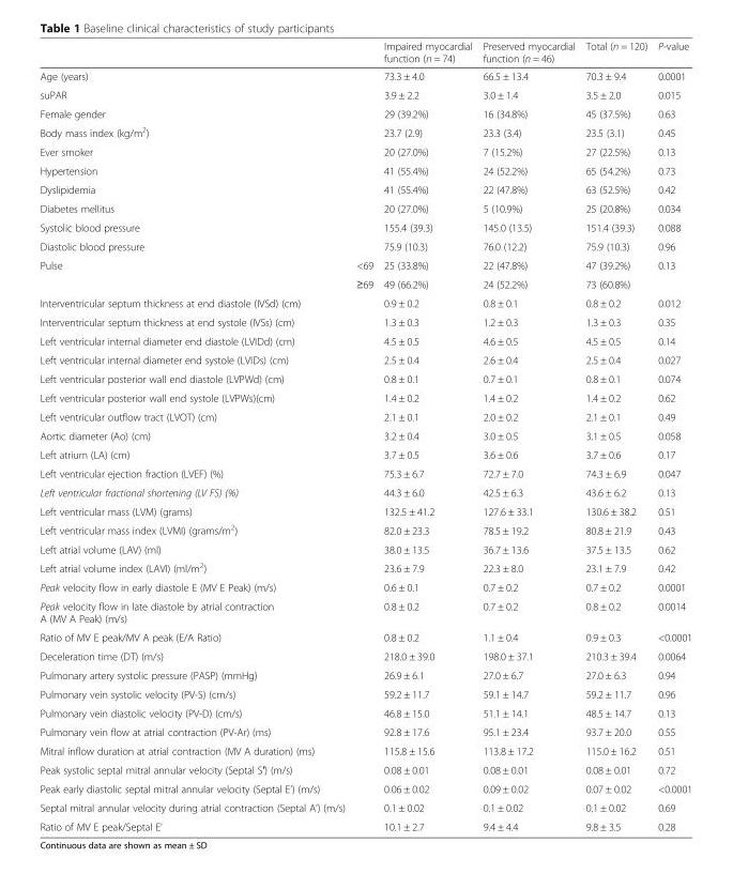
<table><thead><tr><td></td><td></td><td>Impaired myocardial function (n = 74)</td><td>Preserved myocardial function (n = 46)</td><td>Total (n = 120)</td><td>P-value</td></tr></thead><tbody><tr><td>Age (years)</td><td></td><td>73.3 ± 4.0</td><td>66.5 ± 13.4</td><td>70.3 ± 9.4</td><td>0.0001</td></tr><tr><td>suPAR</td><td></td><td>3.9 ± 2.2</td><td>3.0 ± 1.4</td><td>3.5 ± 2.0</td><td>0.015</td></tr><tr><td>Female gender</td><td></td><td>29 (39.2%)</td><td>16 (34.8%)</td><td>45 (37.5%)</td><td>0.63</td></tr><tr><td>Body mass index (kg/m<sup>2</sup>)</td><td></td><td>23.7 (2.9)</td><td>23.3 (3.4)</td><td>23.5 (3.1)</td><td>0.45</td></tr><tr><td>Ever smoker</td><td></td><td>20 (27.0%)</td><td>7 (15.2%)</td><td>27 (22.5%)</td><td>0.13</td></tr><tr><td>Hypertension</td><td></td><td>41 (55.4%)</td><td>24 (52.2%)</td><td>65 (54.2%)</td><td>0.73</td></tr><tr><td>Dyslipidemia</td><td></td><td>41 (55.4%)</td><td>22 (47.8%)</td><td>63 (52.5%)</td><td>0.42</td></tr><tr><td>Diabetes mellitus</td><td></td><td>20 (27.0%)</td><td>5 (10.9%)</td><td>25 (20.8%)</td><td>0.034</td></tr><tr><td>Systolic blood pressure</td><td></td><td>155.4 (39.3)</td><td>145.0 (13.5)</td><td>151.4 (39.3)</td><td>0.088</td></tr><tr><td>Diastolic blood pressure</td><td></td><td>75.9 (10.3)</td><td>76.0 (12.2)</td><td>75.9 (10.3)</td><td>0.96</td></tr><tr><td rowspan="2">Pulse</td><td>&lt;69</td><td>25 (33.8%)</td><td>22 (47.8%)</td><td>47 (39.2%)</td><td>0.13</td></tr><tr><td>≥69</td><td>49 (66.2%)</td><td>24 (52.2%)</td><td>73 (60.8%)</td><td></td></tr><tr><td>Interventricular septum thickness at end diastole (IVSd) (cm)</td><td></td><td>0.9 ± 0.2</td><td>0.8 ± 0.1</td><td>0.8 ± 0.2</td><td>0.012</td></tr><tr><td>Interventricular septum thickness at end systole (IVSs) (cm)</td><td></td><td>1.3 ± 0.3</td><td>1.2 ± 0.3</td><td>1.3 ± 0.3</td><td>0.35</td></tr><tr><td>Left ventricular internal diameter end diastole (LVIDd) (cm)</td><td></td><td>4.5 ± 0.5</td><td>4.6 ± 0.5</td><td>4.5 ± 0.5</td><td>0.14</td></tr><tr><td>Left ventricular internal diameter end systole (LVIDs) (cm)</td><td></td><td>2.5 ± 0.4</td><td>2.6 ± 0.4</td><td>2.5 ± 0.4</td><td>0.027</td></tr><tr><td>Left ventricular posterior wall end diastole (LVPWd) (cm)</td><td></td><td>0.8 ± 0.1</td><td>0.7 ± 0.1</td><td>0.8 ± 0.1</td><td>0.074</td></tr><tr><td>Left ventricular posterior wall end systole (LVPWs)(cm)</td><td></td><td>1.4 ± 0.2</td><td>1.4 ± 0.2</td><td>1.4 ± 0.2</td><td>0.62</td></tr><tr><td>Left ventricular outflow tract (LVOT) (cm)</td><td></td><td>2.1 ± 0.1</td><td>2.0 ± 0.2</td><td>2.1 ± 0.1</td><td>0.49</td></tr><tr><td>Aortic diameter (Ao) (cm)</td><td></td><td>3.2 ± 0.4</td><td>3.0 ± 0.5</td><td>3.1 ± 0.5</td><td>0.058</td></tr><tr><td>Left atrium (LA) (cm)</td><td></td><td>3.7 ± 0.5</td><td>3.6 ± 0.6</td><td>3.7 ± 0.6</td><td>0.17</td></tr><tr><td>Left ventricular ejection fraction (LVEF) (%)</td><td></td><td>75.3 ± 6.7</td><td>72.7 ± 7.0</td><td>74.3 ± 6.9</td><td>0.047</td></tr><tr><td>Left ventricular fractional shortening (LV FS) (%)</td><td></td><td>44.3 ± 6.0</td><td>42.5 ± 6.3</td><td>43.6 ± 6.2</td><td>0.13</td></tr><tr><td>Left ventricular mass (LVM) (grams)</td><td></td><td>132.5 ± 41.2</td><td>127.6 ± 33.1</td><td>130.6 ± 38.2</td><td>0.51</td></tr><tr><td>Left ventricular mass index (LVMI) (grams/m<sup>2</sup>)</td><td></td><td>82.0 ± 23.3</td><td>78.5 ± 19.2</td><td>80.8 ± 21.9</td><td>0.43</td></tr><tr><td>Left atrial volume (LAV) (ml)</td><td></td><td>38.0 ± 13.5</td><td>36.7 ± 13.6</td><td>37.5 ± 13.5</td><td>0.62</td></tr><tr><td>Left atrial volume index (LAVI) (ml/m<sup>2</sup>)</td><td></td><td>23.6 ± 7.9</td><td>22.3 ± 8.0</td><td>23.1 ± 7.9</td><td>0.42</td></tr><tr><td>Peak velocity flow in early diastole E (MV E Peak) (m/s)</td><td></td><td>0.6 ± 0.1</td><td>0.7 ± 0.2</td><td>0.7 ± 0.2</td><td>0.0001</td></tr><tr><td>Peak velocity flow in late diastole by atrial contraction A (MV A Peak) (m/s)</td><td></td><td>0.8 ± 0.2</td><td>0.7 ± 0.2</td><td>0.8 ± 0.2</td><td>0.0014</td></tr><tr><td>Ratio of MV E peak/MV A peak (E/A Ratio)</td><td></td><td>0.8 ± 0.2</td><td>1.1 ± 0.4</td><td>0.9 ± 0.3</td><td>&lt;0.0001</td></tr><tr><td>Deceleration time (DT) (m/s)</td><td></td><td>218.0 ± 39.0</td><td>198.0 ± 37.1</td><td>210.3 ± 39.4</td><td>0.0064</td></tr><tr><td>Pulmonary artery systolic pressure (PASP) (mmHg)</td><td></td><td>26.9 ± 6.1</td><td>27.0 ± 6.7</td><td>27.0 ± 6.3</td><td>0.94</td></tr><tr><td>Pulmonary vein systolic velocity (PV-S) (cm/s)</td><td></td><td>59.2 ± 11.7</td><td>59.1 ± 14.7</td><td>59.2 ± 11.7</td><td>0.96</td></tr><tr><td>Pulmonary vein diastolic velocity (PV-D) (cm/s)</td><td></td><td>46.8 ± 15.0</td><td>51.1 ± 14.1</td><td>48.5 ± 14.7</td><td>0.13</td></tr><tr><td>Pulmonary vein flow at atrial contraction (PV-Ar) (ms)</td><td></td><td>92.8 ± 17.6</td><td>95.1 ± 23.4</td><td>93.7 ± 20.0</td><td>0.55</td></tr><tr><td>Mitral inflow duration at atrial contraction (MV A duration) (ms)</td><td></td><td>115.8 ± 15.6</td><td>113.8 ± 17.2</td><td>115.0 ± 16.2</td><td>0.51</td></tr><tr><td>Peak systolic septal mitral annular velocity (Septal S′) (m/s)</td><td></td><td>0.08 ± 0.01</td><td>0.08 ± 0.01</td><td>0.08 ± 0.01</td><td>0.72</td></tr><tr><td>Peak early diastolic septal mitral annular velocity (Septal E’) (m/s)</td><td></td><td>0.06 ± 0.02</td><td>0.09 ± 0.02</td><td>0.07 ± 0.02</td><td>&lt;0.0001</td></tr><tr><td>Septal mitral annular velocity during atrial contraction (Septal A’) (m/s)</td><td></td><td>0.1 ± 0.02</td><td>0.1 ± 0.02</td><td>0.1 ± 0.02</td><td>0.69</td></tr><tr><td>Ratio of MV E peak/Septal E’</td><td></td><td>10.1 ± 2.7</td><td>9.4 ± 4.4</td><td>9.8 ± 3.5</td><td>0.28</td></tr></tbody></table>